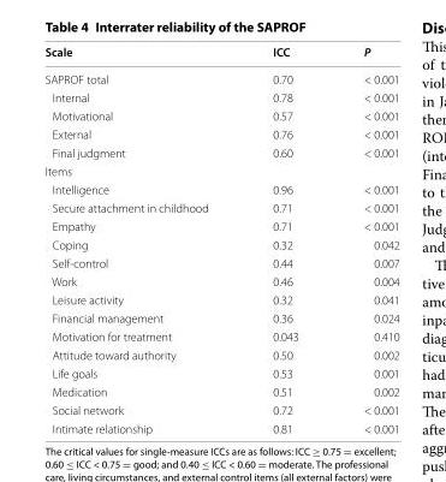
<table><thead><tr><td>Scale</td><td>ICC</td><td>P</td></tr></thead><tbody><tr><td>SAPROF total</td><td>0.70</td><td>&lt; 0.001</td></tr><tr><td>Internal</td><td>0.78</td><td>&lt; 0.001</td></tr><tr><td>Motivational</td><td>0.57</td><td>&lt; 0.001</td></tr><tr><td>External</td><td>0.76</td><td>&lt; 0.001</td></tr><tr><td>Final judgment</td><td>0.60</td><td>&lt; 0.001</td></tr><tr><td colspan="3">Items</td></tr><tr><td>Intelligence</td><td>0.96</td><td>&lt; 0.001</td></tr><tr><td>Secure attachment in childhood</td><td>0.71</td><td>&lt; 0.001</td></tr><tr><td>Empathy</td><td>0.71</td><td>&lt; 0.001</td></tr><tr><td>Coping</td><td>0.32</td><td>0.042</td></tr><tr><td>Self-control</td><td>0.44</td><td>0.007</td></tr><tr><td>Work</td><td>0.46</td><td>0.004</td></tr><tr><td>Leisure activity</td><td>0.32</td><td>0.041</td></tr><tr><td>Financial management</td><td>0.36</td><td>0.024</td></tr><tr><td>Motivation for treatment</td><td>0.043</td><td>0.410</td></tr><tr><td>Attitude toward authority</td><td>0.50</td><td>0.002</td></tr><tr><td>Life goals</td><td>0.53</td><td>0.001</td></tr><tr><td>Medication</td><td>0.51</td><td>0.002</td></tr><tr><td>Social network</td><td>0.72</td><td>&lt; 0.001</td></tr><tr><td>Intimate relationship</td><td>0.81</td><td>&lt; 0.001</td></tr></tbody></table>